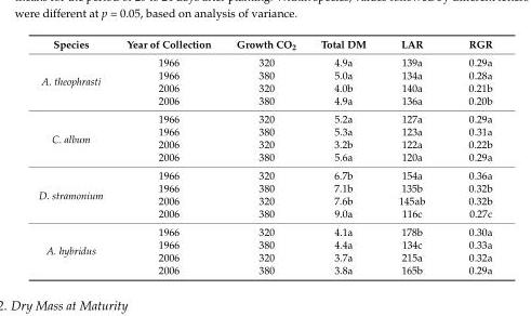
<table><thead><tr><td>Species</td><td>Year of Collection</td><td>Growth CO<sub>2</sub></td><td>Total DM</td><td>LAR</td><td>RGR</td></tr></thead><tbody><tr><td rowspan="4">A. theophrasti</td><td>1966</td><td>320</td><td>4.9a</td><td>139a</td><td>0.29a</td></tr><tr><td>1966</td><td>380</td><td>5.0a</td><td>134a</td><td>0.28a</td></tr><tr><td>2006</td><td>320</td><td>4.0b</td><td>140a</td><td>0.21b</td></tr><tr><td>2006</td><td>380</td><td>4.9a</td><td>136a</td><td>0.20b</td></tr><tr><td rowspan="4">C. album</td><td>1966</td><td>320</td><td>5.2a</td><td>127a</td><td>0.29a</td></tr><tr><td>1966</td><td>380</td><td>5.3a</td><td>123a</td><td>0.31a</td></tr><tr><td>2006</td><td>320</td><td>3.2b</td><td>122a</td><td>0.22b</td></tr><tr><td>2006</td><td>380</td><td>5.6a</td><td>120a</td><td>0.29a</td></tr><tr><td rowspan="4">D. stramonium</td><td>1966</td><td>320</td><td>6.7b</td><td>154a</td><td>0.36a</td></tr><tr><td>1966</td><td>380</td><td>7.1b</td><td>135b</td><td>0.32b</td></tr><tr><td>2006</td><td>320</td><td>7.6b</td><td>145ab</td><td>0.32b</td></tr><tr><td>2006</td><td>380</td><td>9.0a</td><td>116c</td><td>0.27c</td></tr><tr><td rowspan="4">A. hybridus</td><td>1966</td><td>320</td><td>4.1a</td><td>178b</td><td>0.30a</td></tr><tr><td>1966</td><td>380</td><td>4.4a</td><td>134c</td><td>0.33a</td></tr><tr><td>2006</td><td>320</td><td>3.7a</td><td>215a</td><td>0.32a</td></tr><tr><td>2006</td><td>380</td><td>3.8a</td><td>165b</td><td>0.29a</td></tr></tbody></table>